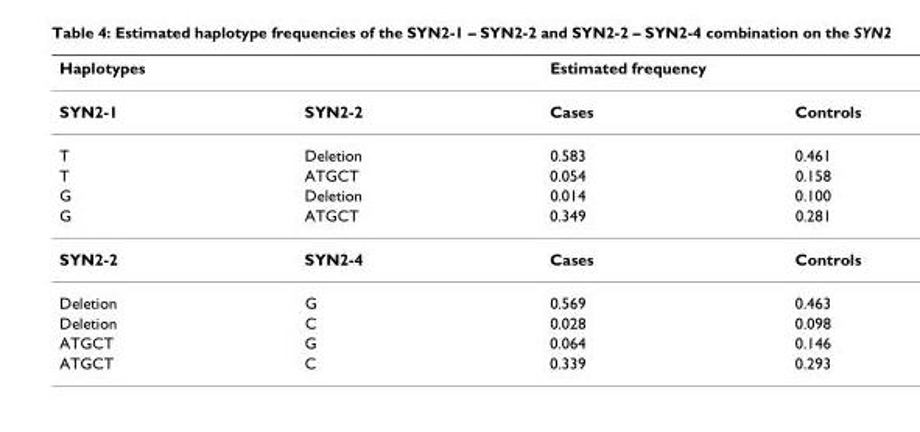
<table><thead><tr><td rowspan="2">Haplotypes SYN2-1</td><td rowspan="2">SYN2-2</td><td colspan="2">Estimated frequency</td></tr><tr><td>Cases</td><td>Controls</td></tr></thead><tbody><tr><td>T</td><td>Deletion</td><td>0.583</td><td>0.461</td></tr><tr><td>T</td><td>ATGCT</td><td>0.054</td><td>0.158</td></tr><tr><td>G</td><td>Deletion</td><td>0.014</td><td>0.100</td></tr><tr><td>G</td><td>ATGCT</td><td>0.349</td><td>0.281</td></tr><tr><td>SYN2-2</td><td>SYN2-4</td><td>Cases</td><td>Controls</td></tr><tr><td>Deletion</td><td>G</td><td>0.569</td><td>0.463</td></tr><tr><td>Deletion</td><td>C</td><td>0.028</td><td>0.098</td></tr><tr><td>ATGCT</td><td>G</td><td>0.064</td><td>0.146</td></tr><tr><td>ATGCT</td><td>C</td><td>0.339</td><td>0.293</td></tr></tbody></table>